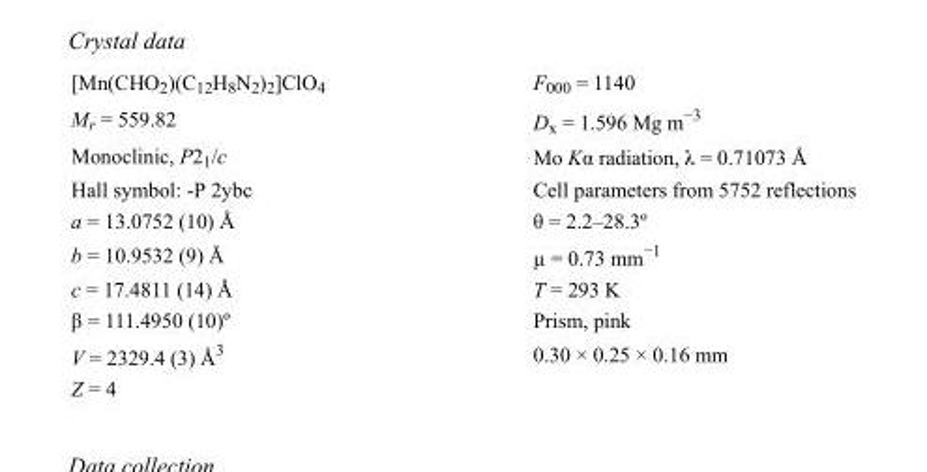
<table><tbody><tr><td>[Mn(CHO<sub>2</sub>)(C<sub>12</sub>H<sub>8</sub>N<sub>2</sub>)<sub>2</sub>]ClO<sub>4</sub></td><td>F000 = 1140</td></tr><tr><td>M<sub>r</sub> = 559.82</td><td>D<sub>x</sub> = 1.596 Mg m<sup>−3</sup></td></tr><tr><td>Monoclinic, P2<sub>1</sub>/c</td><td>Mo Kα radiation, λ = 0.71073 Å</td></tr><tr><td>Hall symbol: -P 2ybc</td><td>Cell parameters from 5752 reflections</td></tr><tr><td>a = 13.0752 (10) Å</td><td>θ = 2.2–28.3º</td></tr><tr><td>b = 10.9532 (9) Å</td><td>µ = 0.73 mm<sup>−1</sup></td></tr><tr><td>c = 17.4811 (14) Å</td><td>T = 293 K</td></tr><tr><td>β = 111.4950 (10)º</td><td>Prism, pink</td></tr><tr><td>V = 2329.4 (3) Å<sup>3</sup></td><td>0.30 × 0.25 × 0.16 mm</td></tr><tr><td>Z = 4</td><td></td></tr></tbody></table>